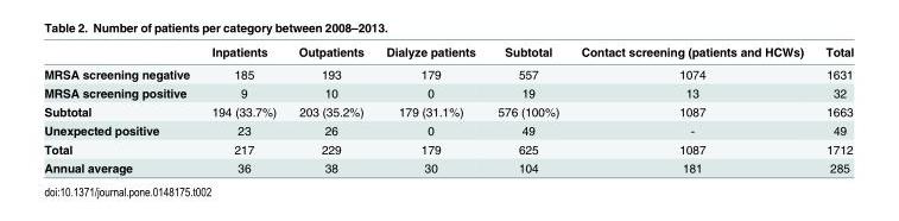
<table><thead><tr><td></td><td>Inpatients</td><td>Outpatients</td><td>Dialyze patients</td><td>Subtotal</td><td>Contact screening (patients and HCWs)</td><td>Total</td></tr></thead><tbody><tr><td>MRSA screening negative</td><td>185</td><td>193</td><td>179</td><td>557</td><td>1074</td><td>1631</td></tr><tr><td>MRSA screening positive</td><td>9</td><td>10</td><td>0</td><td>19</td><td>13</td><td>32</td></tr><tr><td>Subtotal</td><td>194 (33.7%)</td><td>203 (35.2%)</td><td>179 (31.1%)</td><td>576 (100%)</td><td>1087</td><td>1663</td></tr><tr><td>Unexpected positive</td><td>23</td><td>26</td><td>0</td><td>49</td><td>-</td><td>49</td></tr><tr><td>Total</td><td>217</td><td>229</td><td>179</td><td>625</td><td>1087</td><td>1712</td></tr><tr><td>Annual average</td><td>36</td><td>38</td><td>30</td><td>104</td><td>181</td><td>285</td></tr></tbody></table>